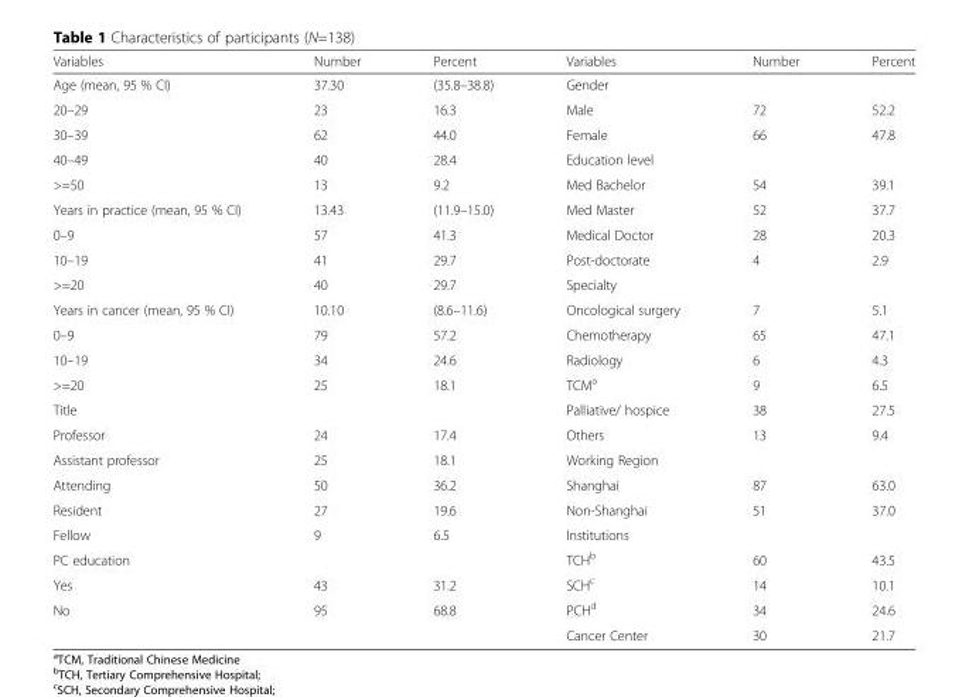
<table><thead><tr><td>Variables</td><td>Number</td><td>Percent</td><td>Variables</td><td>Number</td><td>Percent</td></tr></thead><tbody><tr><td>Age (mean, 95 % CI)</td><td>37.30</td><td>(35.8–38.8)</td><td>Gender</td><td></td><td></td></tr><tr><td>20–29</td><td>23</td><td>16.3</td><td>Male</td><td>72</td><td>52.2</td></tr><tr><td>30–39</td><td>62</td><td>44.0</td><td>Female</td><td>66</td><td>47.8</td></tr><tr><td>40–49</td><td>40</td><td>28.4</td><td>Education level</td><td></td><td></td></tr><tr><td>&gt;=50</td><td>13</td><td>9.2</td><td>Med Bachelor</td><td>54</td><td>39.1</td></tr><tr><td>Years in practice (mean, 95 % CI)</td><td>13.43</td><td>(11.9–15.0)</td><td>Med Master</td><td>52</td><td>37.7</td></tr><tr><td>0–9</td><td>57</td><td>41.3</td><td>Medical Doctor</td><td>28</td><td>20.3</td></tr><tr><td>10–19</td><td>41</td><td>29.7</td><td>Post-doctorate</td><td>4</td><td>2.9</td></tr><tr><td>&gt;=20</td><td>40</td><td>29.7</td><td>Specialty</td><td></td><td></td></tr><tr><td>Years in cancer (mean, 95 % CI)</td><td>10.10</td><td>(8.6–11.6)</td><td>Oncological surgery</td><td>7</td><td>5.1</td></tr><tr><td>0–9</td><td>79</td><td>57.2</td><td>Chemotherapy</td><td>65</td><td>47.1</td></tr><tr><td>10–19</td><td>34</td><td>24.6</td><td>Radiology</td><td>6</td><td>4.3</td></tr><tr><td>&gt;=20</td><td>25</td><td>18.1</td><td>TCM<sup>a</sup></td><td>9</td><td>6.5</td></tr><tr><td>Title</td><td></td><td></td><td>Palliative/ hospice</td><td>38</td><td>27.5</td></tr><tr><td>Professor</td><td>24</td><td>17.4</td><td>Others</td><td>13</td><td>9.4</td></tr><tr><td>Assistant professor</td><td>25</td><td>18.1</td><td>Working Region</td><td></td><td></td></tr><tr><td>Attending</td><td>50</td><td>36.2</td><td>Shanghai</td><td>87</td><td>63.0</td></tr><tr><td>Resident</td><td>27</td><td>19.6</td><td>Non-Shanghai</td><td>51</td><td>37.0</td></tr><tr><td>Fellow</td><td>9</td><td>6.5</td><td>Institutions</td><td></td><td></td></tr><tr><td>PC education</td><td></td><td></td><td>TCH<sup>b</sup></td><td>60</td><td>43.5</td></tr><tr><td>Yes</td><td>43</td><td>31.2</td><td>SCH<sup>c</sup></td><td>14</td><td>10.1</td></tr><tr><td rowspan="2">No</td><td>95</td><td>68.8</td><td>PCH<sup>d</sup></td><td>34</td><td>24.6</td></tr><tr><td></td><td></td><td>Cancer Center</td><td>30</td><td>21.7</td></tr></tbody></table>